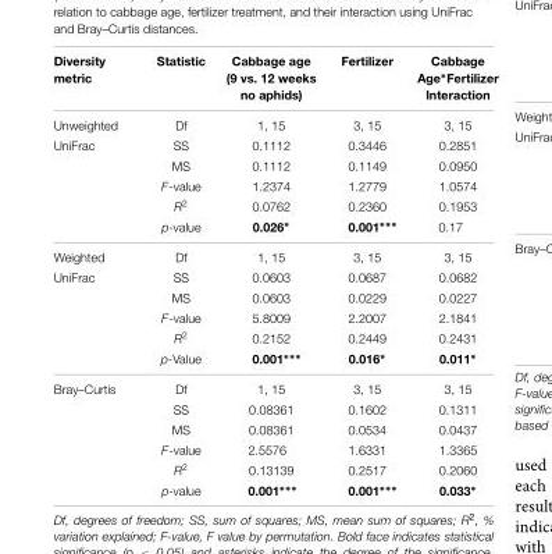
<table><thead><tr><td>Diversity metric</td><td>Statistic</td><td>Cabbage age (9 vs. 12 weeks no aphids)</td><td>Fertilizer</td><td>Cabbage Age∗Fertilizer Interaction</td></tr></thead><tbody><tr><td>Unweighted</td><td>Df</td><td>1, 15</td><td>3, 15</td><td>3, 15</td></tr><tr><td rowspan="5">UniFrac</td><td>SS</td><td>0.1112</td><td>0.3446</td><td>0.2851</td></tr><tr><td>MS</td><td>0.1112</td><td>0.1149</td><td>0.0950</td></tr><tr><td>F-value</td><td>1.2374</td><td>1.2779</td><td>1.0574</td></tr><tr><td>R<sup>2</sup></td><td>0.0762</td><td>0.2360</td><td>0.1953</td></tr><tr><td>p-value</td><td>0.026∗</td><td>0.001∗∗∗</td><td>0.17</td></tr><tr><td>Weighted</td><td>Df</td><td>1, 15</td><td>3, 15</td><td>3, 15</td></tr><tr><td rowspan="5">UniFrac</td><td>SS</td><td>0.0603</td><td>0.0687</td><td>0.0682</td></tr><tr><td>MS</td><td>0.0603</td><td>0.0229</td><td>0.0227</td></tr><tr><td>F-value</td><td>5.8009</td><td>2.2007</td><td>2.1841</td></tr><tr><td>R<sup>2</sup></td><td>0.2152</td><td>0.2449</td><td>0.2431</td></tr><tr><td>p-Value</td><td>0.001∗∗∗</td><td>0.016∗</td><td>0.011∗</td></tr><tr><td rowspan="6">Bray–Curtis</td><td>Df</td><td>1, 15</td><td>3, 15</td><td>3, 15</td></tr><tr><td>SS</td><td>0.08361</td><td>0.1602</td><td>0.1311</td></tr><tr><td>MS</td><td>0.08361</td><td>0.0534</td><td>0.0437</td></tr><tr><td>F-value</td><td>2.5576</td><td>1.6331</td><td>1.3365</td></tr><tr><td>R<sup>2</sup></td><td>0.13139</td><td>0.2517</td><td>0.2060</td></tr><tr><td>p-value</td><td>0.001∗∗∗</td><td>0.001∗∗∗</td><td>0.033∗</td></tr></tbody></table>